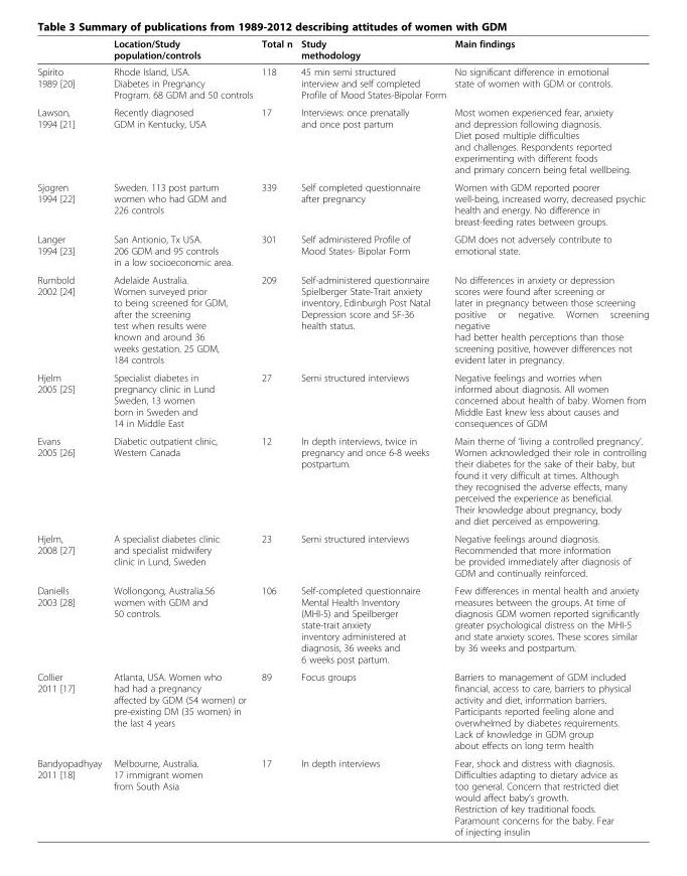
<table><thead><tr><td></td><td>Location/Study population/controls</td><td>Total n</td><td>Study methodology</td><td>Main findings</td></tr></thead><tbody><tr><td>Spirito 1989 [20]</td><td>Rhode Island, USA. Diabetes in Pregnancy Program. 68 GDM and 50 controls</td><td>118</td><td>45 min semi structured interview and self completed Profile of Mood States-Bipolar Form</td><td>No significant difference in emotional state of women with GDM or controls.</td></tr><tr><td>Lawson, 1994 [21]</td><td>Recently diagnosed GDM in Kentucky, USA</td><td>17</td><td>Interviews: once prenatally and once post partum</td><td>Most women experienced fear, anxiety and depression following diagnosis. Diet posed multiple difficulties and challenges. Respondents reported experimenting with different foods and primary concern being fetal wellbeing.</td></tr><tr><td>Sjogren 1994 [22]</td><td>Sweden. 113 post partum women who had GDM and 226 controls</td><td>339</td><td>Self completed questionnaire after pregnancy</td><td>Women with GDM reported poorer well-being, increased worry, decreased psychic health and energy. No difference in breast-feeding rates between groups.</td></tr><tr><td>Langer 1994 [23]</td><td>San Antionio, Tx USA. 206 GDM and 95 controls in a low socioeconomic area.</td><td>301</td><td>Self administered Profile of Mood States- Bipolar Form</td><td>GDM does not adversely contribute to emotional state.</td></tr><tr><td>Rumbold 2002 [24]</td><td>Adelaide Australia. Women surveyed prior to being screened for GDM, after the screening test when results were known and around 36 weeks gestation. 25 GDM, 184 controls</td><td>209</td><td>Self-administered questionnaire Spielberger State-Trait anxiety inventory, Edinburgh Post Natal Depression score and SF-36 health status.</td><td>No differences in anxiety or depression scores were found after screening or later in pregnancy between those screening positive or negative. Women screening negative had better health perceptions than those screening positive, however differences not evident later in pregnancy.</td></tr><tr><td>Hjelm 2005 [25]</td><td>Specialist diabetes in pregnancy clinic in Lund Sweden, 13 women born in Sweden and 14 in Middle East</td><td>27</td><td>Semi structured interviews</td><td>Negative feelings and worries when informed about diagnosis. All women concerned about health of baby. Women from Middle East knew less about causes and consequences of GDM</td></tr><tr><td>Evans 2005 [26]</td><td>Diabetic outpatient clinic, Western Canada</td><td>12</td><td>In depth interviews, twice in pregnancy and once 6-8 weeks postpartum.</td><td>Main theme of ‘living a controlled pregnancy’. Women acknowledged their role in controlling their diabetes for the sake of their baby, but found it very difficult at times. Although they recognised the adverse effects, many perceived the experience as beneficial. Their knowledge about pregnancy, body and diet perceived as empowering.</td></tr><tr><td>Hjelm, 2008 [27]</td><td>A specialist diabetes clinic and specialist midwifery clinic in Lund, Sweden</td><td>23</td><td>Semi structured interviews</td><td>Negative feelings around diagnosis. Recommended that more information be provided immediately after diagnosis of GDM and continually reinforced.</td></tr><tr><td>Daniells 2003 [28]</td><td>Wollongong, Australia.56 women with GDM and 50 controls.</td><td>106</td><td>Self-completed questionnaire Mental Health Inventory (MHI-5) and Speilberger state-trait anxiety inventory administered at diagnosis, 36 weeks and 6 weeks post partum.</td><td>Few differences in mental health and anxiety measures between the groups. At time of diagnosis GDM women reported significantly greater psychological distress on the MHI-5 and state anxiety scores. These scores similar by 36 weeks and postpartum.</td></tr><tr><td>Collier 2011 [17]</td><td>Atlanta, USA. Women who had had a pregnancy affected by GDM (54 women) or pre-existing DM (35 women) in the last 4 years</td><td>89</td><td>Focus groups</td><td>Barriers to management of GDM included financial, access to care, barriers to physical activity and diet, information barriers. Participants reported feeling alone and overwhelmed by diabetes requirements. Lack of knowledge in GDM group about effects on long term health</td></tr><tr><td>Bandyopadhyay 2011 [18]</td><td>Melbourne, Australia. 17 immigrant women from South Asia</td><td>17</td><td>In depth interviews</td><td>Fear, shock and distress with diagnosis. Difficulties adapting to dietary advice as too general. Concern that restricted diet would affect baby’s growth. Restriction of key traditional foods. Paramount concerns for the baby. Fear of injecting insulin</td></tr></tbody></table>